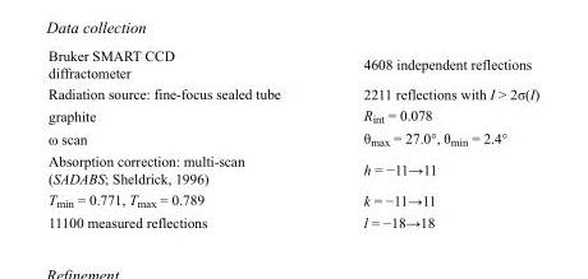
<table><tbody><tr><td>Bruker SMART CCD diffractometer</td><td>4608 independent reflections</td></tr><tr><td>Radiation source: fine-focus sealed tube</td><td>2211 reflections with I &gt; 2σ(I)</td></tr><tr><td>graphite</td><td>R<sub>int</sub> = 0.078</td></tr><tr><td>ω scan</td><td>θ<sub>max</sub> = 27.0°, θ<sub>min</sub> = 2.4°</td></tr><tr><td>Absorption correction: multi-scan (SADABS; Sheldrick, 1996)</td><td>h = −11→11</td></tr><tr><td>T<sub>min</sub> = 0.771, T<sub>max</sub> = 0.789</td><td>k = −11→11</td></tr><tr><td>11100 measured reflections</td><td>l = −18→18</td></tr></tbody></table>